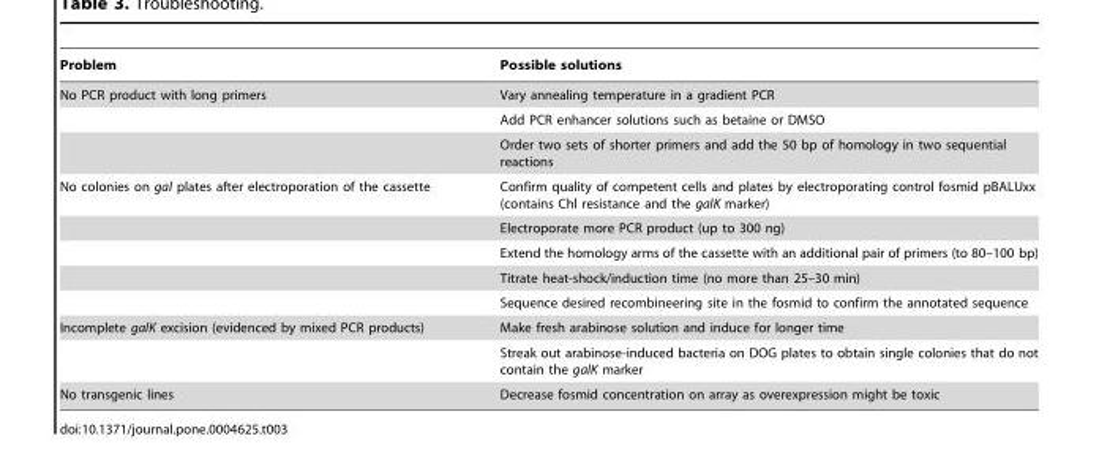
<table><thead><tr><td>Problem</td><td>Possible solutions</td></tr></thead><tbody><tr><td rowspan="3">No PCR product with long primers</td><td>Vary annealing temperature in a gradient PCR</td></tr><tr><td>Add PCR enhancer solutions such as betaine or DMSO</td></tr><tr><td>Order two sets of shorter primers and add the 50 bp of homology in two sequential reactions</td></tr><tr><td rowspan="5">No colonies on gal plates after electroporation of the cassette</td><td>Confirm quality of competent cells and plates by electroporating control fosmid pBALUxx (contains Chl resistance and the galK marker)</td></tr><tr><td>Electroporate more PCR product (up to 300 ng)</td></tr><tr><td>Extend the homology arms of the cassette with an additional pair of primers (to 80–100 bp)</td></tr><tr><td>Titrate heat-shock/induction time (no more than 25–30 min)</td></tr><tr><td>Sequence desired recombineering site in the fosmid to confirm the annotated sequence</td></tr><tr><td rowspan="2">Incomplete galK excision (evidenced by mixed PCR products)</td><td>Make fresh arabinose solution and induce for longer time</td></tr><tr><td>Streak out arabinose-induced bacteria on DOG plates to obtain single colonies that do not contain the galK marker</td></tr><tr><td>No transgenic lines</td><td>Decrease fosmid concentration on array as overexpression might be toxic</td></tr></tbody></table>